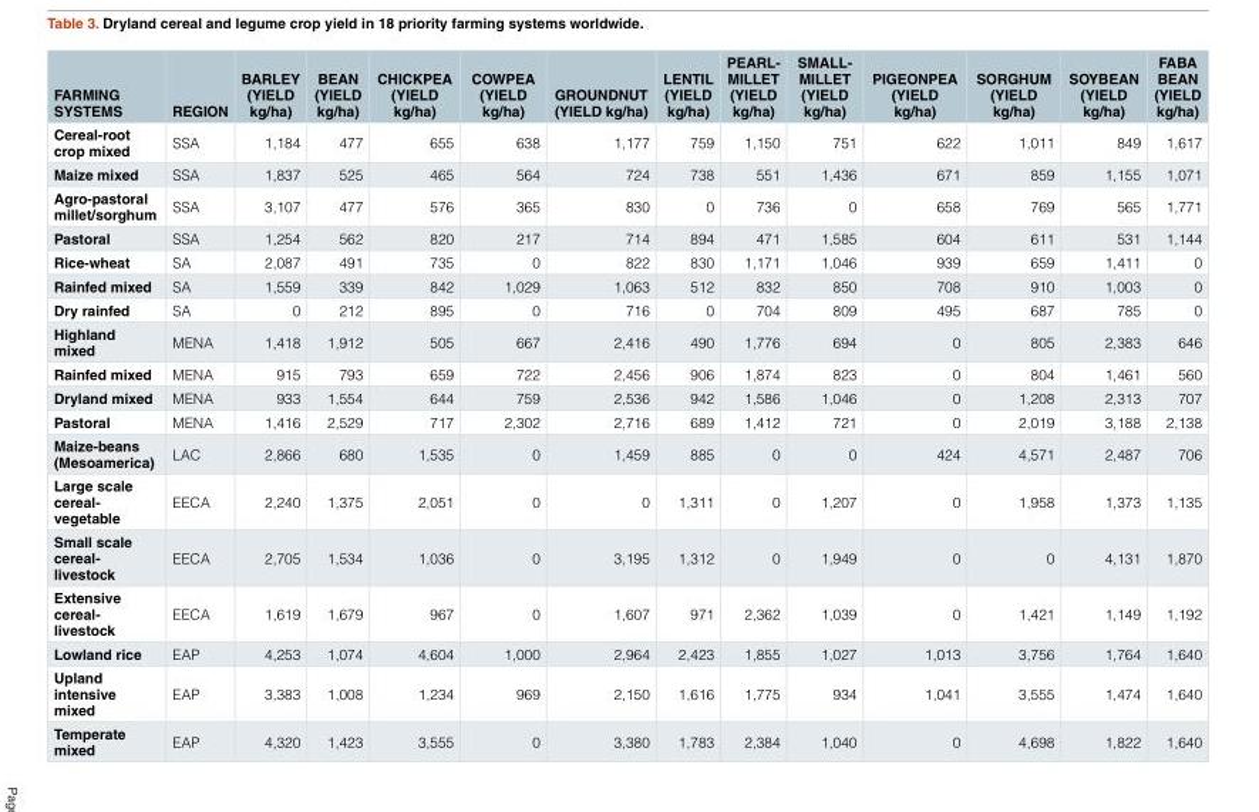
<table><thead><tr><td>FARMING SYSTEMS</td><td>REGION</td><td>BARLEY (YIELD kg/ha)</td><td>BEAN (YIELD kg/ha)</td><td>CHICKPEA (YIELD kg/ha)</td><td>COWPEA (YIELD kg/ha)</td><td>GROUNDNUT (YIELD kg/ha)</td><td>LENTIL (YIELD kg/ha)</td><td>PEARL- MILLET (YIELD kg/ha)</td><td>SMALL- MILLET (YIELD kg/ha)</td><td>PIGEONPEA (YIELD kg/ha)</td><td>SORGHUM (YIELD kg/ha)</td><td>SOYBEAN (YIELD kg/ha)</td><td>FABA BEAN (YIELD kg/ha)</td></tr></thead><tbody><tr><td>Cereal-root crop mixed</td><td>SSA</td><td>1,184</td><td>477</td><td>655</td><td>638</td><td>1,177</td><td>759</td><td>1,150</td><td>751</td><td>622</td><td>1,011</td><td>849</td><td>1,617</td></tr><tr><td>Maize mixed</td><td>SSA</td><td>1,837</td><td>525</td><td>465</td><td>564</td><td>724</td><td>738</td><td>551</td><td>1,436</td><td>671</td><td>859</td><td>1,155</td><td>1,071</td></tr><tr><td>Agro-pastoral millet/sorghum</td><td>SSA</td><td>3,107</td><td>477</td><td>576</td><td>365</td><td>830</td><td>0</td><td>736</td><td>0</td><td>658</td><td>769</td><td>565</td><td>1,771</td></tr><tr><td>Pastoral</td><td>SSA</td><td>1,254</td><td>562</td><td>820</td><td>217</td><td>714</td><td>894</td><td>471</td><td>1,585</td><td>604</td><td>611</td><td>531</td><td>1,144</td></tr><tr><td>Rice-wheat</td><td>SA</td><td>2,087</td><td>491</td><td>735</td><td>0</td><td>822</td><td>830</td><td>1,171</td><td>1,046</td><td>939</td><td>659</td><td>1,411</td><td>0</td></tr><tr><td>Rainfed mixed</td><td>SA</td><td>1,559</td><td>339</td><td>842</td><td>1,029</td><td>1,063</td><td>512</td><td>832</td><td>850</td><td>708</td><td>910</td><td>1,003</td><td>0</td></tr><tr><td>Dry rainfed</td><td>SA</td><td>0</td><td>212</td><td>895</td><td>0</td><td>716</td><td>0</td><td>704</td><td>809</td><td>495</td><td>687</td><td>785</td><td>0</td></tr><tr><td>Highland mixed</td><td>MENA</td><td>1,418</td><td>1,912</td><td>505</td><td>667</td><td>2,416</td><td>490</td><td>1,776</td><td>694</td><td>0</td><td>805</td><td>2,383</td><td>646</td></tr><tr><td>Rainfed mixed</td><td>MENA</td><td>915</td><td>793</td><td>659</td><td>722</td><td>2,456</td><td>906</td><td>1,874</td><td>823</td><td>0</td><td>804</td><td>1,461</td><td>560</td></tr><tr><td>Dryland mixed</td><td>MENA</td><td>933</td><td>1,554</td><td>644</td><td>759</td><td>2,536</td><td>942</td><td>1,586</td><td>1,046</td><td>0</td><td>1,208</td><td>2,313</td><td>707</td></tr><tr><td>Pastoral</td><td>MENA</td><td>1,416</td><td>2,529</td><td>717</td><td>2,302</td><td>2,716</td><td>689</td><td>1,412</td><td>721</td><td>0</td><td>2,019</td><td>3,188</td><td>2,138</td></tr><tr><td>Maize-beans (Mesoamerica)</td><td>LAC</td><td>2,866</td><td>680</td><td>1,535</td><td>0</td><td>1,459</td><td>885</td><td>0</td><td>0</td><td>424</td><td>4,571</td><td>2,487</td><td>706</td></tr><tr><td>Large scale cereal- vegetable</td><td>EECA</td><td>2,240</td><td>1,375</td><td>2,051</td><td>0</td><td>0</td><td>1,311</td><td>0</td><td>1,207</td><td>0</td><td>1,958</td><td>1,373</td><td>1,135</td></tr><tr><td>Small scale cereal- livestock</td><td>EECA</td><td>2,705</td><td>1,534</td><td>1,036</td><td>0</td><td>3,195</td><td>1,312</td><td>0</td><td>1,949</td><td>0</td><td>0</td><td>4,131</td><td>1,870</td></tr><tr><td>Extensive cereal- livestock</td><td>EECA</td><td>1,619</td><td>1,679</td><td>967</td><td>0</td><td>1,607</td><td>971</td><td>2,362</td><td>1,039</td><td>0</td><td>1,421</td><td>1,149</td><td>1,192</td></tr><tr><td>Lowland rice</td><td>EAP</td><td>4,253</td><td>1,074</td><td>4,604</td><td>1,000</td><td>2,964</td><td>2,423</td><td>1,855</td><td>1,027</td><td>1,013</td><td>3,756</td><td>1,764</td><td>1,640</td></tr><tr><td>Upland intensive mixed</td><td>EAP</td><td>3,383</td><td>1,008</td><td>1,234</td><td>969</td><td>2,150</td><td>1,616</td><td>1,775</td><td>934</td><td>1,041</td><td>3,555</td><td>1,474</td><td>1,640</td></tr><tr><td>Temperate mixed</td><td>EAP</td><td>4,320</td><td>1,423</td><td>3,555</td><td>0</td><td>3,380</td><td>1,783</td><td>2,384</td><td>1,040</td><td>0</td><td>4,698</td><td>1,822</td><td>1,640</td></tr></tbody></table>